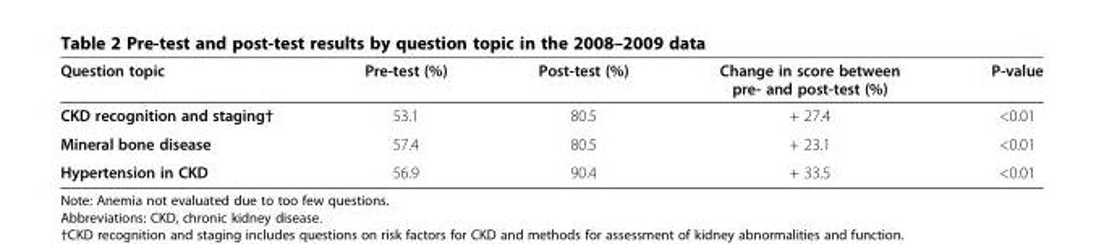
<table><thead><tr><td>Question topic</td><td>Pre-test (%)</td><td>Post-test (%)</td><td>Change in score between pre- and post-test (%)</td><td>P-value</td></tr></thead><tbody><tr><td>CKD recognition and staging†</td><td>53.1</td><td>80.5</td><td>+ 27.4</td><td>&lt;0.01</td></tr><tr><td>Mineral bone disease</td><td>57.4</td><td>80.5</td><td>+ 23.1</td><td>&lt;0.01</td></tr><tr><td>Hypertension in CKD</td><td>56.9</td><td>90.4</td><td>+ 33.5</td><td>&lt;0.01</td></tr></tbody></table>